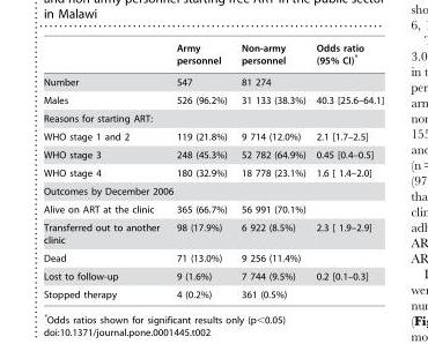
<table><thead><tr><td></td><td>Army personnel</td><td>Non-army personnel</td><td>Odds ratio (95% CI)*</td></tr></thead><tbody><tr><td>Number</td><td>547</td><td>81 274</td><td></td></tr><tr><td>Males</td><td>526 (96.2%)</td><td>31 133 (38.3%)</td><td>40.3 [25.6–64.1]</td></tr><tr><td colspan="4">Reasons for starting ART:</td></tr><tr><td>WHO stage 1 and 2</td><td>119 (21.8%)</td><td>9 714 (12.0%)</td><td>2.1 [1.7–2.5]</td></tr><tr><td>WHO stage 3</td><td>248 (45.3%)</td><td>52 782 (64.9%)</td><td>0.45 [0.4–0.5]</td></tr><tr><td>WHO stage 4</td><td>180 (32.9%)</td><td>18 778 (23.1%)</td><td>1.6 [ 1.4–2.0]</td></tr><tr><td colspan="4">Outcomes by December 2006</td></tr><tr><td>Alive on ART at the clinic</td><td>365 (66.7%)</td><td>56 991 (70.1%)</td><td></td></tr><tr><td>Transferred out to another clinic</td><td>98 (17.9%)</td><td>6 922 (8.5%)</td><td>2.3 [ 1.9–2.9]</td></tr><tr><td>Dead</td><td>71 (13.0%)</td><td>9 256 (11.4%)</td><td></td></tr><tr><td>Lost to follow-up</td><td>9 (1.6%)</td><td>7 744 (9.5%)</td><td>0.2 [0.1–0.3]</td></tr><tr><td>Stopped therapy</td><td>4 (0.2%)</td><td>361 (0.5%)</td><td></td></tr></tbody></table>